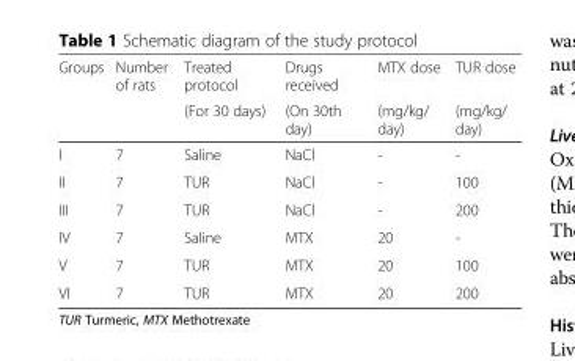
<table><thead><tr><td rowspan="2">Groups</td><td rowspan="2">Number of rats</td><td rowspan="2">Treated protocol (For 30 days)</td><td rowspan="2">Drugs received (On 30th day)</td><td rowspan="2">MTX dose (mg/kg/ day)</td><td rowspan="2">TUR dose (mg/kg/ day)</td></tr><tr></tr></thead><tbody><tr><td>I</td><td>7</td><td>Saline</td><td>NaCl</td><td>-</td><td>-</td></tr><tr><td>II</td><td>7</td><td>TUR</td><td>NaCl</td><td>-</td><td>100</td></tr><tr><td>III</td><td>7</td><td>TUR</td><td>NaCl</td><td>-</td><td>200</td></tr><tr><td>IV</td><td>7</td><td>Saline</td><td>MTX</td><td>20</td><td>-</td></tr><tr><td>V</td><td>7</td><td>TUR</td><td>MTX</td><td>20</td><td>100</td></tr><tr><td>VI</td><td>7</td><td>TUR</td><td>MTX</td><td>20</td><td>200</td></tr></tbody></table>